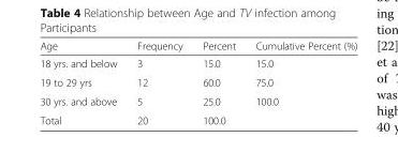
<table><thead><tr><td>Age</td><td>Frequency</td><td>Percent</td><td>Cumulative Percent (%)</td></tr></thead><tbody><tr><td>18 yrs. and below</td><td>3</td><td>15.0</td><td>15.0</td></tr><tr><td>19 to 29 yrs</td><td>12</td><td>60.0</td><td>75.0</td></tr><tr><td>30 yrs. and above</td><td>5</td><td>25.0</td><td>100.0</td></tr><tr><td>Total</td><td>20</td><td>100.0</td><td></td></tr></tbody></table>